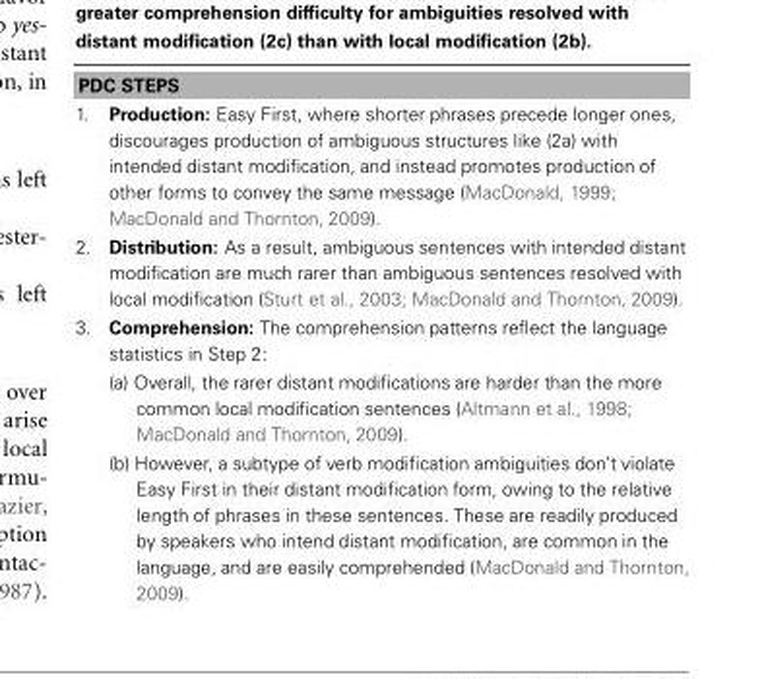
<table><tbody><tr><td colspan="2">PDC STEPS</td></tr><tr><td>1.</td><td>Production: Easy First, where shorter phrases precede longer ones, discourages production of ambiguous structures like (2a) with intended distant modification, and instead promotes production of other forms to convey the same message (MacDonald, 1999; MacDonald and Thornton, 2009).</td></tr><tr><td>2.</td><td>Distribution: As a result, ambiguous sentences with intended distant modification are much rarer than ambiguous sentences resolved with local modification (Sturt et al., 2003; MacDonald and Thornton, 2009).</td></tr><tr><td>3.</td><td>Comprehension: The comprehension patterns reflect the language statistics in Step 2: (a) Overall, the rarer distant modifications are harder than the more common local modification sentences (Altmann et al., 1998; MacDonald and Thornton, 2009). (b) However, a subtype of verb modification ambiguities don’t violate Easy First in their distant modification form, owing to the relative length of phrases in these sentences. These are readily produced by speakers who intend distant modification, are common in the language, and are easily comprehended (MacDonald and Thornton, 2009).</td></tr></tbody></table>